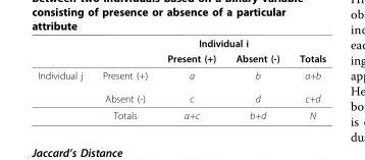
<table><thead><tr><td rowspan="2"></td><td rowspan="2"></td><td colspan="2">Individual i</td><td rowspan="2">Totals</td></tr><tr><td>Present (+)</td><td>Absent (-)</td></tr></thead><tbody><tr><td rowspan="2">Individual j</td><td>Present (+) Absent (-)</td><td>a c</td><td>b d</td><td>a+b c+d</td></tr><tr><td>Totals</td><td>a+c</td><td>b+d</td><td>Ν</td></tr></tbody></table>